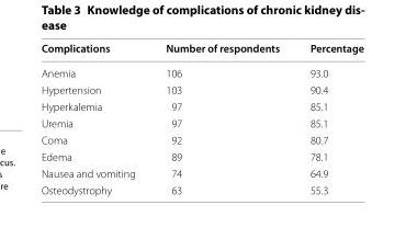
<table><thead><tr><td>Complications</td><td>Number of respondents</td><td>Percentage</td></tr></thead><tbody><tr><td>Anemia</td><td>106</td><td>93.0</td></tr><tr><td>Hypertension</td><td>103</td><td>90.4</td></tr><tr><td>Hyperkalemia</td><td>97</td><td>85.1</td></tr><tr><td>Uremia</td><td>97</td><td>85.1</td></tr><tr><td>Coma</td><td>92</td><td>80.7</td></tr><tr><td>Edema</td><td>89</td><td>78.1</td></tr><tr><td>Nausea and vomiting</td><td>74</td><td>64.9</td></tr><tr><td>Osteodystrophy</td><td>63</td><td>55.3</td></tr></tbody></table>